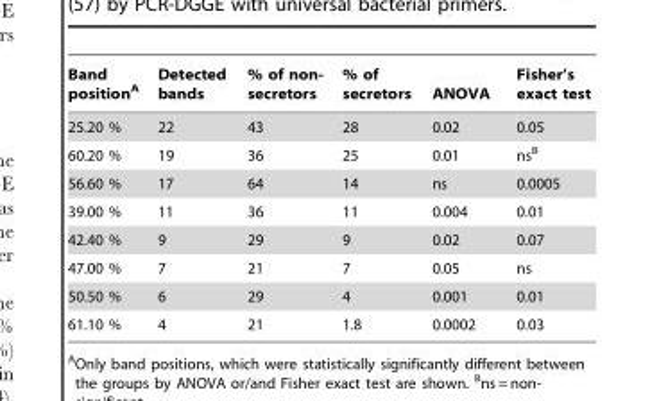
<table><thead><tr><td>Band position<sup>A</sup></td><td>Detected bands</td><td>% of non- secretors</td><td>% of secretors</td><td>ANOVA</td><td>Fisher’s exact test</td></tr></thead><tbody><tr><td>25.20 %</td><td>22</td><td>43</td><td>28</td><td>0.02</td><td>0.05</td></tr><tr><td>60.20 %</td><td>19</td><td>36</td><td>25</td><td>0.01</td><td>ns<sup>B</sup></td></tr><tr><td>56.60 %</td><td>17</td><td>64</td><td>14</td><td>ns</td><td>0.0005</td></tr><tr><td>39.00 %</td><td>11</td><td>36</td><td>11</td><td>0.004</td><td>0.01</td></tr><tr><td>42.40 %</td><td>9</td><td>29</td><td>9</td><td>0.02</td><td>0.07</td></tr><tr><td>47.00 %</td><td>7</td><td>21</td><td>7</td><td>0.05</td><td>ns</td></tr><tr><td>50.50 %</td><td>6</td><td>29</td><td>4</td><td>0.001</td><td>0.01</td></tr><tr><td>61.10 %</td><td>4</td><td>21</td><td>1.8</td><td>0.0002</td><td>0.03</td></tr></tbody></table>